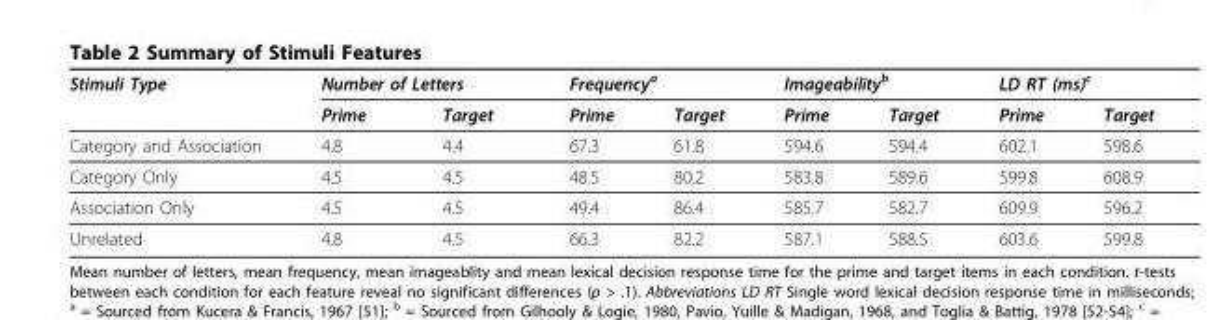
<table><thead><tr><td rowspan="2">Stimuli Type</td><td colspan="2">Number of Letters</td><td colspan="2">Frequency<sup>a</sup></td><td colspan="2">Imageability<sup>b</sup></td><td colspan="2">LD RT (ms)<sup>c</sup></td></tr><tr><td>Prime</td><td>Target</td><td>Prime</td><td>Target</td><td>Prime</td><td>Target</td><td>Prime</td><td>Target</td></tr></thead><tbody><tr><td>Category and Association</td><td>4.8</td><td>4.4</td><td>67.3</td><td>61.8</td><td>594.6</td><td>594.4</td><td>602.1</td><td>598.6</td></tr><tr><td>Category Only</td><td>4.5</td><td>4.5</td><td>48.5</td><td>80.2</td><td>583.8</td><td>589.6</td><td>599.8</td><td>608.9</td></tr><tr><td>Association Only</td><td>4.5</td><td>4.5</td><td>49.4</td><td>86.4</td><td>585.7</td><td>582.7</td><td>609.9</td><td>596.2</td></tr><tr><td>Unrelated</td><td>4.8</td><td>4.5</td><td>66.3</td><td>82.2</td><td>587.1</td><td>588.5</td><td>603.6</td><td>599.8</td></tr></tbody></table>